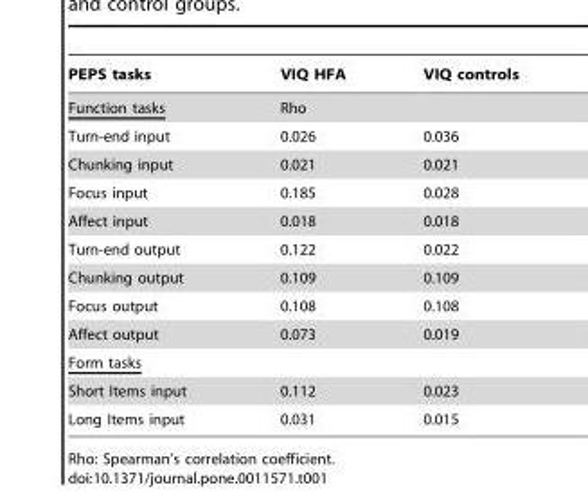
<table><thead><tr><td>PEPS tasks</td><td>VIQ HFA</td><td>VIQ controls</td></tr></thead><tbody><tr><td>Function tasks</td><td colspan="2">Rho</td></tr><tr><td>Turn-end input</td><td>0.026</td><td>0.036</td></tr><tr><td>Chunking input</td><td>0.021</td><td>0.021</td></tr><tr><td>Focus input</td><td>0.185</td><td>0.028</td></tr><tr><td>Affect input</td><td>0.018</td><td>0.018</td></tr><tr><td>Turn-end output</td><td>0.122</td><td>0.022</td></tr><tr><td>Chunking output</td><td>0.109</td><td>0.109</td></tr><tr><td>Focus output</td><td>0.108</td><td>0.108</td></tr><tr><td>Affect output</td><td>0.073</td><td>0.019</td></tr><tr><td colspan="3">Form tasks</td></tr><tr><td>Short Items input</td><td>0.112</td><td>0.023</td></tr><tr><td>Long Items input</td><td>0.031</td><td>0.015</td></tr></tbody></table>